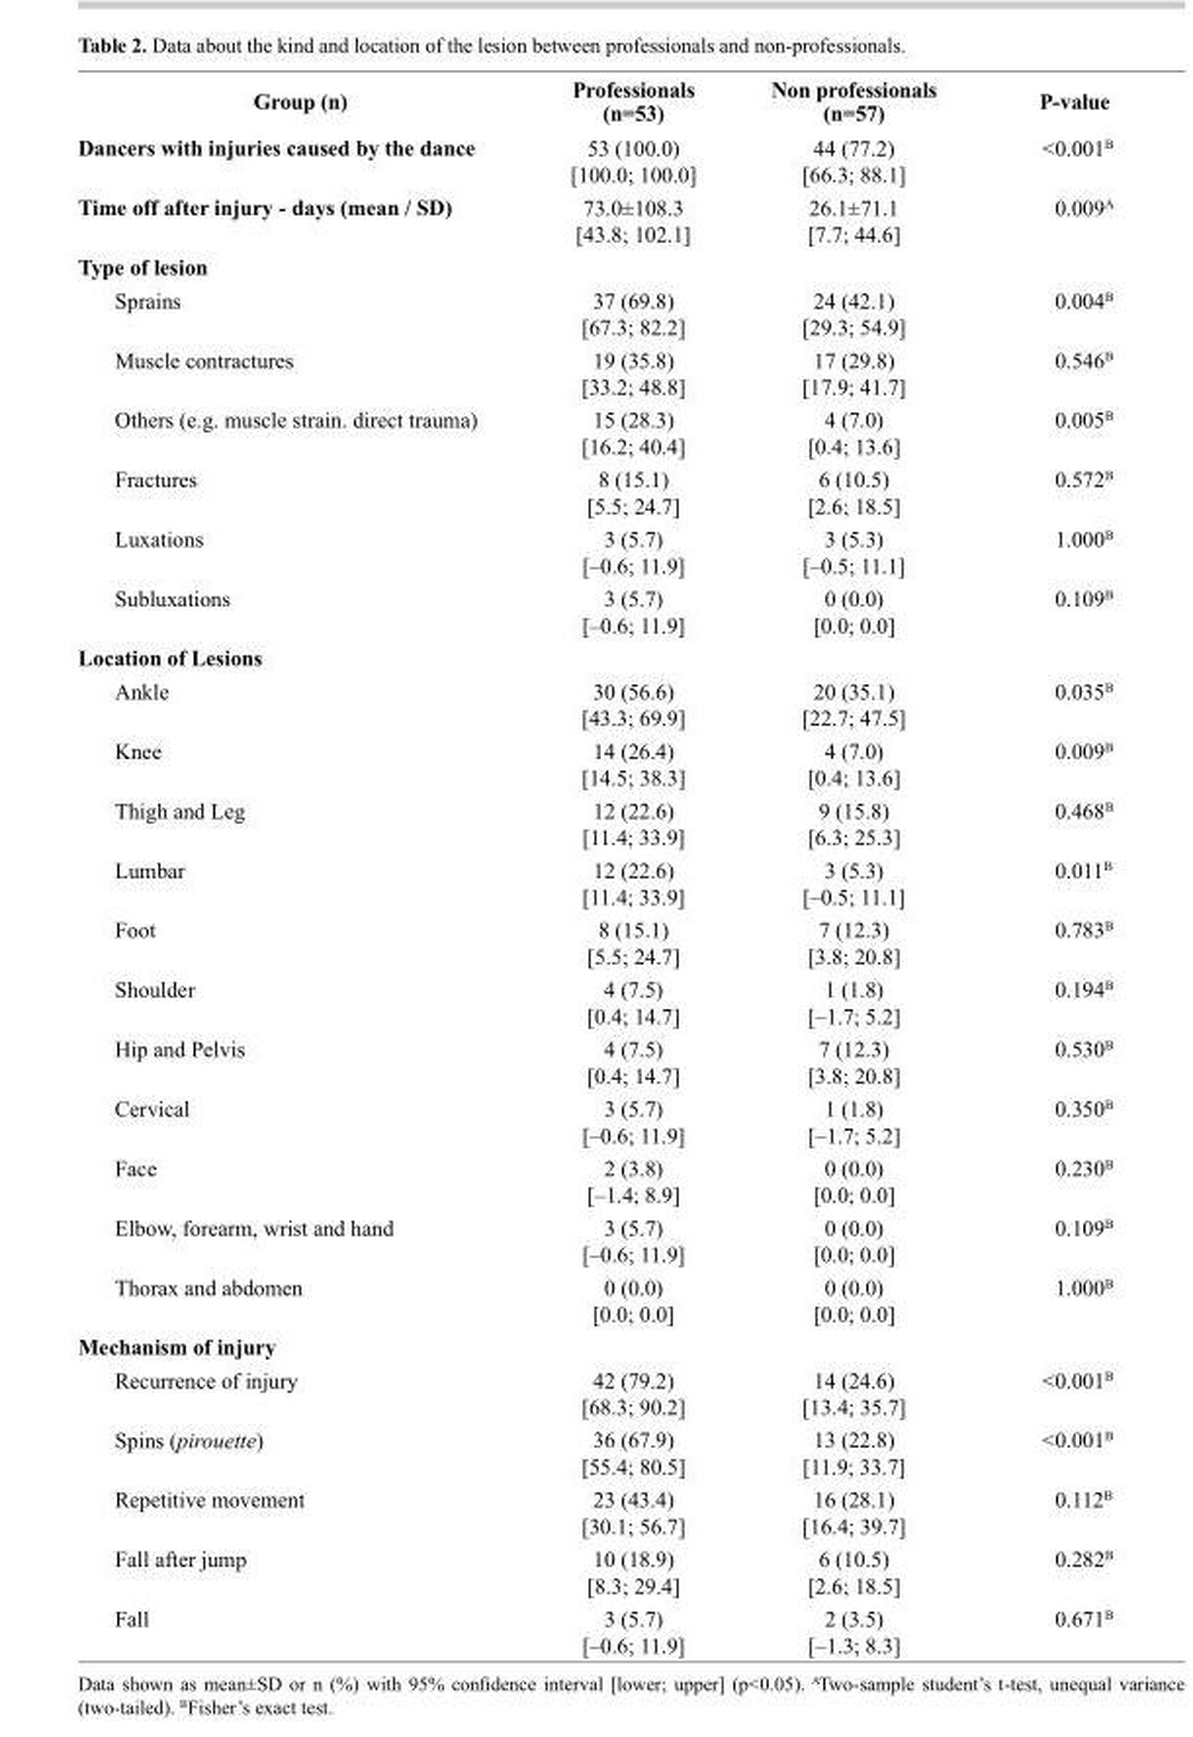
<table><thead><tr><td>Group (n)</td><td>Professionals (n=53)</td><td>Non professionals (n=57)</td><td>P-value</td></tr></thead><tbody><tr><td>Dancers with injuries caused by the dance</td><td>53 (100.0) [100.0; 100.0]</td><td>44 (77.2) [66.3; 88.1]</td><td>&lt;0.001<sup>B</sup></td></tr><tr><td>Time off after injury - days (mean / SD)</td><td>73.0±108.3 [43.8; 102.1]</td><td>26.1±71.1 [7.7; 44.6]</td><td>0.009<sup>A</sup></td></tr><tr><td>Type of lesion Sprains</td><td>37 (69.8) [67.3; 82.2]</td><td>24 (42.1) [29.3; 54.9]</td><td>0.004<sup>B</sup></td></tr><tr><td>Muscle contractures</td><td>19 (35.8) [33.2; 48.8]</td><td>17 (29.8) [17.9; 41.7]</td><td>0.546<sup>B</sup></td></tr><tr><td>Others (e.g. muscle strain. direct trauma)</td><td>15 (28.3) [16.2; 40.4]</td><td>4 (7.0) [0.4; 13.6]</td><td>0.005<sup>B</sup></td></tr><tr><td>Fractures</td><td>8 (15.1) [5.5; 24.7]</td><td>6 (10.5) [2.6; 18.5]</td><td>0.572<sup>B</sup></td></tr><tr><td>Luxations</td><td>3 (5.7) [–0.6; 11.9]</td><td>3 (5.3) [–0.5; 11.1]</td><td>1.000<sup>B</sup></td></tr><tr><td>Subluxations</td><td>3 (5.7) [–0.6; 11.9]</td><td>0 (0.0) [0.0; 0.0]</td><td>0.109<sup>B</sup></td></tr><tr><td>Location of Lesions Ankle</td><td>30 (56.6) [43.3; 69.9]</td><td>20 (35.1) [22.7; 47.5]</td><td>0.035<sup>B</sup></td></tr><tr><td>Knee</td><td>14 (26.4) [14.5; 38.3]</td><td>4 (7.0) [0.4; 13.6]</td><td>0.009<sup>B</sup></td></tr><tr><td>Thigh and Leg</td><td>12 (22.6) [11.4; 33.9]</td><td>9 (15.8) [6.3; 25.3]</td><td>0.468<sup>B</sup></td></tr><tr><td>Lumbar</td><td>12 (22.6) [11.4; 33.9]</td><td>3 (5.3) [–0.5; 11.1]</td><td>0.011<sup>B</sup></td></tr><tr><td>Foot</td><td>8 (15.1) [5.5; 24.7]</td><td>7 (12.3) [3.8; 20.8]</td><td>0.783<sup>B</sup></td></tr><tr><td>Shoulder</td><td>4 (7.5) [0.4; 14.7]</td><td>1 (1.8) [–1.7; 5.2]</td><td>0.194<sup>B</sup></td></tr><tr><td>Hip and Pelvis</td><td>4 (7.5) [0.4; 14.7]</td><td>7 (12.3) [3.8; 20.8]</td><td>0.530<sup>B</sup></td></tr><tr><td>Cervical</td><td>3 (5.7) [–0.6; 11.9]</td><td>1 (1.8) [–1.7; 5.2]</td><td>0.350<sup>B</sup></td></tr><tr><td>Face</td><td>2 (3.8) [–1.4; 8.9]</td><td>0 (0.0) [0.0; 0.0]</td><td>0.230<sup>B</sup></td></tr><tr><td>Elbow, forearm, wrist and hand</td><td>3 (5.7) [–0.6; 11.9]</td><td>0 (0.0) [0.0; 0.0]</td><td>0.109<sup>B</sup></td></tr><tr><td>Thorax and abdomen</td><td>0 (0.0) [0.0; 0.0]</td><td>0 (0.0) [0.0; 0.0]</td><td>1.000<sup>B</sup></td></tr><tr><td>Mechanism of injury Recurrence of injury</td><td>42 (79.2) [68.3; 90.2]</td><td>14 (24.6) [13.4; 35.7]</td><td>&lt;0.001<sup>B</sup></td></tr><tr><td>Spins (pirouette)</td><td>36 (67.9) [55.4; 80.5]</td><td>13 (22.8) [11.9; 33.7]</td><td>&lt;0.001<sup>B</sup></td></tr><tr><td>Repetitive movement</td><td>23 (43.4) [30.1; 56.7]</td><td>16 (28.1) [16.4; 39.7]</td><td>0.112<sup>B</sup></td></tr><tr><td>Fall after jump</td><td>10 (18.9) [8.3; 29.4]</td><td>6 (10.5) [2.6; 18.5]</td><td>0.282<sup>B</sup></td></tr><tr><td>Fall</td><td>3 (5.7) [–0.6; 11.9]</td><td>2 (3.5) [–1.3; 8.3]</td><td>0.671<sup>B</sup></td></tr></tbody></table>